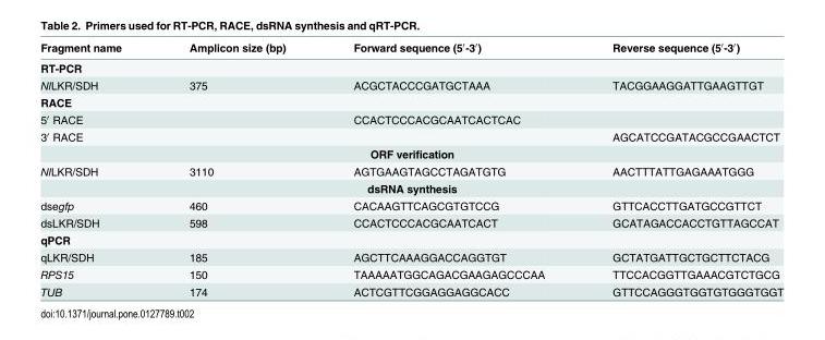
<table><thead><tr><td>Fragment name</td><td>Amplicon size (bp)</td><td>Forward sequence (5′-3′)</td><td>Reverse sequence (5′-3′)</td></tr></thead><tbody><tr><td colspan="4">RT-PCR</td></tr><tr><td>NlLKR/SDH</td><td>375</td><td>ACGCTACCCGATGCTAAA</td><td>TACGGAAGGATTGAAGTTGT</td></tr><tr><td colspan="4">RACE</td></tr><tr><td>5′ RACE</td><td></td><td>CCACTCCCACGCAATCACTCAC</td><td></td></tr><tr><td>3′ RACE</td><td></td><td></td><td>AGCATCCGATACGCCGAACTCT</td></tr><tr><td colspan="4">ORF verification</td></tr><tr><td>NlLKR/SDH</td><td>3110</td><td>AGTGAAGTAGCCTAGATGTG</td><td>AACTTTATTGAGAAATGGG</td></tr><tr><td colspan="4">dsRNA synthesis</td></tr><tr><td>dsegfp</td><td>460</td><td>CACAAGTTCAGCGTGTCCG</td><td>GTTCACCTTGATGCCGTTCT</td></tr><tr><td>dsLKR/SDH</td><td>598</td><td>CCACTCCCACGCAATCACT</td><td>GCATAGACCACCTGTTAGCCAT</td></tr><tr><td colspan="4">qPCR</td></tr><tr><td>qLKR/SDH</td><td>185</td><td>AGCTTCAAAGGACCAGGTGT</td><td>GCTATGATTGCTGCTTCTACG</td></tr><tr><td>RPS15</td><td>150</td><td>TAAAAATGGCAGACGAAGAGCCCAA</td><td>TTCCACGGTTGAAACGTCTGCG</td></tr><tr><td>TUB</td><td>174</td><td>ACTCGTTCGGAGGAGGCACC</td><td>GTTCCAGGGTGGTGTGGGTGGT</td></tr></tbody></table>